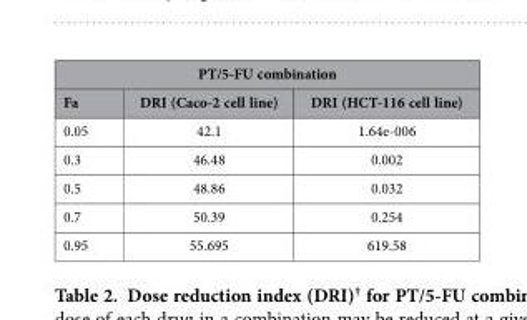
<table><thead><tr><td colspan="3">PT/5-FU combination</td></tr><tr><td>Fa</td><td>DRI (Caco-2 cell line)</td><td>DRI (HCT-116 cell line)</td></tr></thead><tbody><tr><td>0.05</td><td>42.1</td><td>1.64e-006</td></tr><tr><td>0.3</td><td>46.48</td><td>0.002</td></tr><tr><td>0.5</td><td>48.86</td><td>0.032</td></tr><tr><td>0.7</td><td>50.39</td><td>0.254</td></tr><tr><td>0.95</td><td>55.695</td><td>619.58</td></tr></tbody></table>